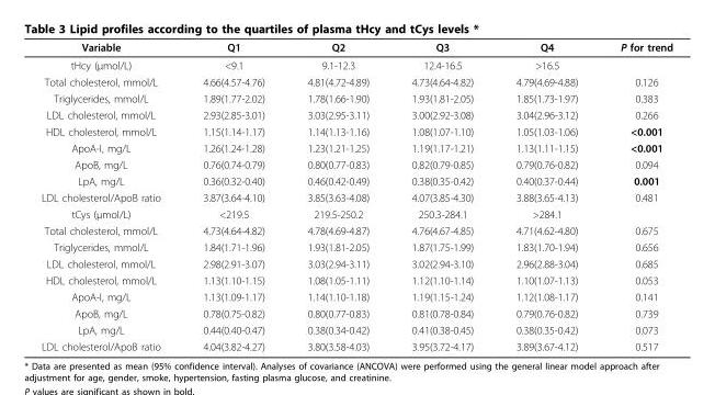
<table><thead><tr><td>Variable</td><td>Q1</td><td>Q2</td><td>Q3</td><td>Q4</td><td>P for trend</td></tr></thead><tbody><tr><td>tHcy (μmol/L)</td><td>&lt;9.1</td><td>9.1-12.3</td><td>12.4-16.5</td><td>&gt;16.5</td><td></td></tr><tr><td>Total cholesterol, mmol/L</td><td>4.66(4.57-4.76)</td><td>4.81(4.72-4.89)</td><td>4.73(4.64-4.82)</td><td>4.79(4.69-4.88)</td><td>0.126</td></tr><tr><td>Triglycerides, mmol/L</td><td>1.89(1.77-2.02)</td><td>1.78(1.66-1.90)</td><td>1.93(1.81-2.05)</td><td>1.85(1.73-1.97)</td><td>0.383</td></tr><tr><td>LDL cholesterol, mmol/L</td><td>2.93(2.85-3.01)</td><td>3.03(2.95-3.11)</td><td>3.00(2.92-3.08)</td><td>3.04(2.96-3.12)</td><td>0.266</td></tr><tr><td>HDL cholesterol, mmol/L</td><td>1.15(1.14-1.17)</td><td>1.14(1.13-1.16)</td><td>1.08(1.07-1.10)</td><td>1.05(1.03-1.06)</td><td>&lt;0.001</td></tr><tr><td>ApoA-I, mg/L</td><td>1.26(1.24-1.28)</td><td>1.23(1.21-1.25)</td><td>1.19(1.17-1.21)</td><td>1.13(1.11-1.15)</td><td>&lt;0.001</td></tr><tr><td>ApoB, mg/L</td><td>0.76(0.74-0.79)</td><td>0.80(0.77-0.83)</td><td>0.82(0.79-0.85)</td><td>0.79(0.76-0.82)</td><td>0.094</td></tr><tr><td>LpA, mg/L</td><td>0.36(0.32-0.40)</td><td>0.46(0.42-0.49)</td><td>0.38(0.35-0.42)</td><td>0.40(0.37-0.44)</td><td>0.001</td></tr><tr><td>LDL cholesterol/ApoB ratio</td><td>3.87(3.64-4.10)</td><td>3.85(3.63-4.08)</td><td>4.07(3.85-4.30)</td><td>3.88(3.65-4.13)</td><td>0.481</td></tr><tr><td>tCys (μmol/L)</td><td>&lt;219.5</td><td>219.5-250.2</td><td>250.3-284.1</td><td>&gt;284.1</td><td></td></tr><tr><td>Total cholesterol, mmol/L</td><td>4.73(4.64-4.82)</td><td>4.78(4.69-4.87)</td><td>4.76(4.67-4.85)</td><td>4.71(4.62-4.80)</td><td>0.675</td></tr><tr><td>Triglycerides, mmol/L</td><td>1.84(1.71-1.96)</td><td>1.93(1.81-2.05)</td><td>1.87(1.75-1.99)</td><td>1.83(1.70-1.94)</td><td>0.656</td></tr><tr><td>LDL cholesterol, mmol/L</td><td>2.98(2.91-3.07)</td><td>3.03(2.94-3.11)</td><td>3.02(2.94-3.10)</td><td>2.96(2.88-3.04)</td><td>0.685</td></tr><tr><td>HDL cholesterol, mmol/L</td><td>1.13(1.10-1.15)</td><td>1.08(1.05-1.11)</td><td>1.12(1.10-1.14)</td><td>1.10(1.07-1.13)</td><td>0.053</td></tr><tr><td>ApoA-I, mg/L</td><td>1.13(1.09-1.17)</td><td>1.14(1.10-1.18)</td><td>1.19(1.15-1.24)</td><td>1.12(1.08-1.17)</td><td>0.141</td></tr><tr><td>ApoB, mg/L</td><td>0.78(0.75-0.82)</td><td>0.80(0.77-0.83)</td><td>0.81(0.78-0.84)</td><td>0.79(0.76-0.82)</td><td>0.739</td></tr><tr><td>LpA, mg/L</td><td>0.44(0.40-0.47)</td><td>0.38(0.34-0.42)</td><td>0.41(0.38-0.45)</td><td>0.38(0.35-0.42)</td><td>0.073</td></tr><tr><td>LDL cholesterol/ApoB ratio</td><td>4.04(3.82-4.27)</td><td>3.80(3.58-4.03)</td><td>3.95(3.72-4.17)</td><td>3.89(3.67-4.12)</td><td>0.517</td></tr></tbody></table>